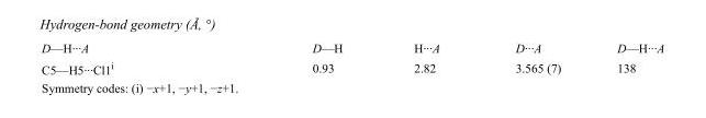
<table><tbody><tr><td>D—H···A</td><td>D—H</td><td>H···A</td><td>D···A</td><td>D—H···A</td></tr><tr><td>C5—H5···Cl1<sup>i</sup></td><td>0.93</td><td>2.82</td><td>3.565 (7)</td><td>138</td></tr></tbody></table>